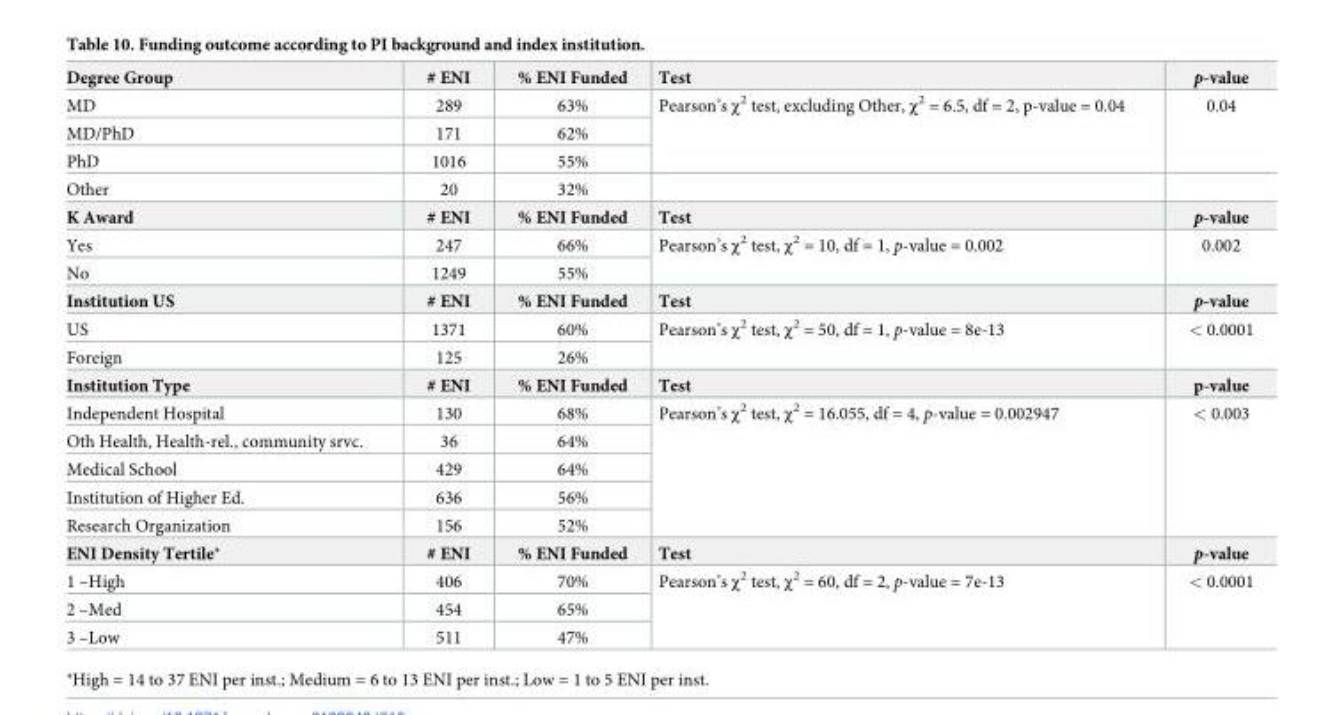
<table><tbody><tr><td>Degree Group</td><td># ENI</td><td>% ENI Funded</td><td>Test</td><td>p-value</td></tr><tr><td>MD</td><td>289</td><td>63%</td><td rowspan="3">Pearson’s χ<sup>2</sup> test, excluding Other, χ<sup>2</sup> = 6.5, df = 2, p-value = 0.04</td><td rowspan="3">0.04</td></tr><tr><td>MD/PhD</td><td>171</td><td>62%</td></tr><tr><td>PhD</td><td>1016</td><td>55%</td></tr><tr><td>Other</td><td>20</td><td>32%</td><td></td><td></td></tr><tr><td>K Award</td><td># ENI</td><td>% ENI Funded</td><td>Test</td><td>p-value</td></tr><tr><td>Yes</td><td>247</td><td>66%</td><td rowspan="2">Pearson’s χ<sup>2</sup> test, χ<sup>2</sup> = 10, df = 1, p-value = 0.002</td><td rowspan="2">0.002</td></tr><tr><td>No</td><td>1249</td><td>55%</td></tr><tr><td>Institution US</td><td># ENI</td><td>% ENI Funded</td><td>Test</td><td>p-value</td></tr><tr><td>US</td><td>1371</td><td>60%</td><td rowspan="2">Pearson’s χ<sup>2</sup> test, χ<sup>2</sup> = 50, df = 1, p-value = 8e-13</td><td rowspan="2">&lt; 0.0001</td></tr><tr><td>Foreign</td><td>125</td><td>26%</td></tr><tr><td>Institution Type</td><td># ENI</td><td>% ENI Funded</td><td>Test</td><td>p-value</td></tr><tr><td>Independent Hospital</td><td>130</td><td>68%</td><td rowspan="5">Pearson’s χ<sup>2</sup> test, χ<sup>2</sup> = 16.055, df = 4, p-value = 0.002947</td><td rowspan="5">&lt; 0.003</td></tr><tr><td>Oth Health, Health-rel., community srvc.</td><td>36</td><td>64%</td></tr><tr><td>Medical School</td><td>429</td><td>64%</td></tr><tr><td>Institution of Higher Ed.</td><td>636</td><td>56%</td></tr><tr><td>Research Organization</td><td>156</td><td>52%</td></tr><tr><td>ENI Density Tertile⁺</td><td># ENI</td><td>% ENI Funded</td><td>Test</td><td>p-value</td></tr><tr><td>1 –High</td><td>406</td><td>70%</td><td rowspan="3">Pearson’s χ<sup>2</sup> test, χ<sup>2</sup> = 60, df = 2, p-value = 7e-13</td><td rowspan="3">&lt; 0.0001</td></tr><tr><td>2 –Med</td><td>454</td><td>65%</td></tr><tr><td>3 –Low</td><td>511</td><td>47%</td></tr></tbody></table>